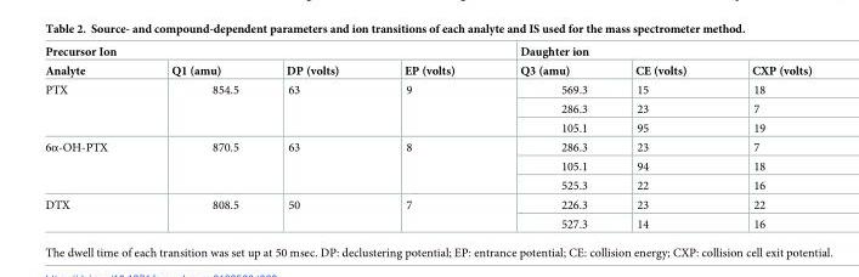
<table><thead><tr><td colspan="4">Precursor Ion</td><td colspan="3">Daughter ion</td></tr><tr><td>Analyte</td><td>Q1 (amu)</td><td>DP (volts)</td><td>EP (volts)</td><td>Q3 (amu)</td><td>CE (volts)</td><td>CXP (volts)</td></tr></thead><tbody><tr><td rowspan="3">PTX</td><td rowspan="3">854.5</td><td rowspan="3">63</td><td rowspan="3">9</td><td>569.3</td><td>15</td><td>18</td></tr><tr><td>286.3</td><td>23</td><td>7</td></tr><tr><td>105.1</td><td>95</td><td>19</td></tr><tr><td rowspan="3">6α-OH-PTX</td><td rowspan="3">870.5</td><td rowspan="3">63</td><td rowspan="3">8</td><td>286.3</td><td>23</td><td>7</td></tr><tr><td>105.1</td><td>94</td><td>18</td></tr><tr><td>525.3</td><td>22</td><td>16</td></tr><tr><td rowspan="2">DTX</td><td rowspan="2">808.5</td><td rowspan="2">50</td><td rowspan="2">7</td><td>226.3</td><td>23</td><td>22</td></tr><tr><td>527.3</td><td>14</td><td>16</td></tr></tbody></table>